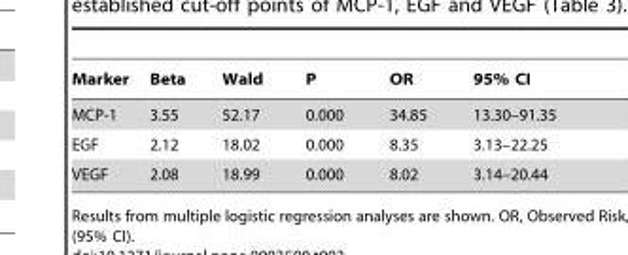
<table><thead><tr><td>Marker</td><td>Beta</td><td>Wald</td><td>P</td><td>OR</td><td>95% CI</td></tr></thead><tbody><tr><td>MCP-1</td><td>3.55</td><td>52.17</td><td>0.000</td><td>34.85</td><td>13.30–91.35</td></tr><tr><td>EGF</td><td>2.12</td><td>18.02</td><td>0.000</td><td>8.35</td><td>3.13–22.25</td></tr><tr><td>VEGF</td><td>2.08</td><td>18.99</td><td>0.000</td><td>8.02</td><td>3.14–20.44</td></tr></tbody></table>